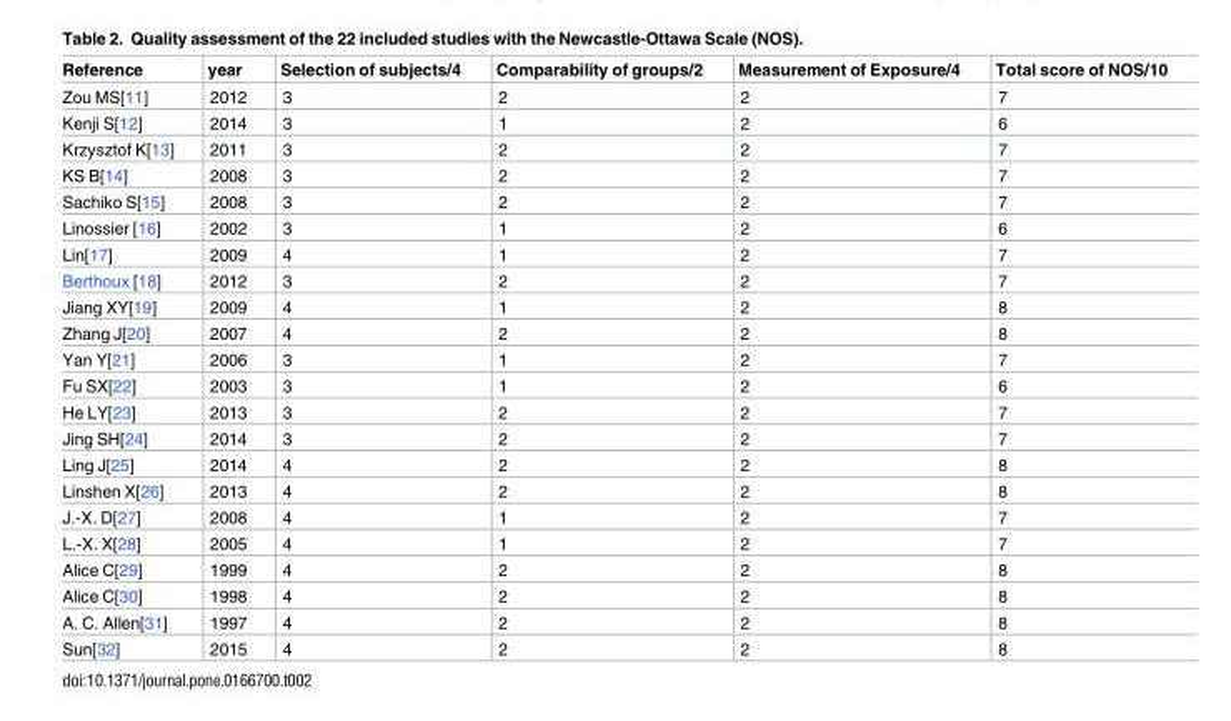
<table><thead><tr><td>Reference</td><td>year</td><td>Selection of subjects/4</td><td>Comparability of groups/2</td><td>Measurement of Exposure/4</td><td>Total score of NOS/10</td></tr></thead><tbody><tr><td>Zou MS[11]</td><td>2012</td><td>3</td><td>2</td><td>2</td><td>7</td></tr><tr><td>Kenji S[12]</td><td>2014</td><td>3</td><td>1</td><td>2</td><td>6</td></tr><tr><td>Krzysztof K[13]</td><td>2011</td><td>3</td><td>2</td><td>2</td><td>7</td></tr><tr><td>KS B[14]</td><td>2008</td><td>3</td><td>2</td><td>2</td><td>7</td></tr><tr><td>Sachiko S[15]</td><td>2008</td><td>3</td><td>2</td><td>2</td><td>7</td></tr><tr><td>Linossier [16]</td><td>2002</td><td>3</td><td>1</td><td>2</td><td>6</td></tr><tr><td>Lin[17]</td><td>2009</td><td>4</td><td>1</td><td>2</td><td>7</td></tr><tr><td>Berthoux [18]</td><td>2012</td><td>3</td><td>2</td><td>2</td><td>7</td></tr><tr><td>Jiang XY[19]</td><td>2009</td><td>4</td><td>1</td><td>2</td><td>8</td></tr><tr><td>Zhang J[20]</td><td>2007</td><td>4</td><td>2</td><td>2</td><td>8</td></tr><tr><td>Yan Y[21]</td><td>2006</td><td>3</td><td>1</td><td>2</td><td>7</td></tr><tr><td>Fu SX[22]</td><td>2003</td><td>3</td><td>1</td><td>2</td><td>6</td></tr><tr><td>He LY[23]</td><td>2013</td><td>3</td><td>2</td><td>2</td><td>7</td></tr><tr><td>Jing SH[24]</td><td>2014</td><td>3</td><td>2</td><td>2</td><td>7</td></tr><tr><td>Ling J[25]</td><td>2014</td><td>4</td><td>2</td><td>2</td><td>8</td></tr><tr><td>Linshen X[26]</td><td>2013</td><td>4</td><td>2</td><td>2</td><td>8</td></tr><tr><td>J.-X. D[27]</td><td>2008</td><td>4</td><td>1</td><td>2</td><td>7</td></tr><tr><td>L.-X. X[28]</td><td>2005</td><td>4</td><td>1</td><td>2</td><td>7</td></tr><tr><td>Alice C[29]</td><td>1999</td><td>4</td><td>2</td><td>2</td><td>8</td></tr><tr><td>Alice C[30]</td><td>1998</td><td>4</td><td>2</td><td>2</td><td>8</td></tr><tr><td>A. C. Allen[31]</td><td>1997</td><td>4</td><td>2</td><td>2</td><td>8</td></tr><tr><td>Sun[32]</td><td>2015</td><td>4</td><td>2</td><td>2</td><td>8</td></tr></tbody></table>